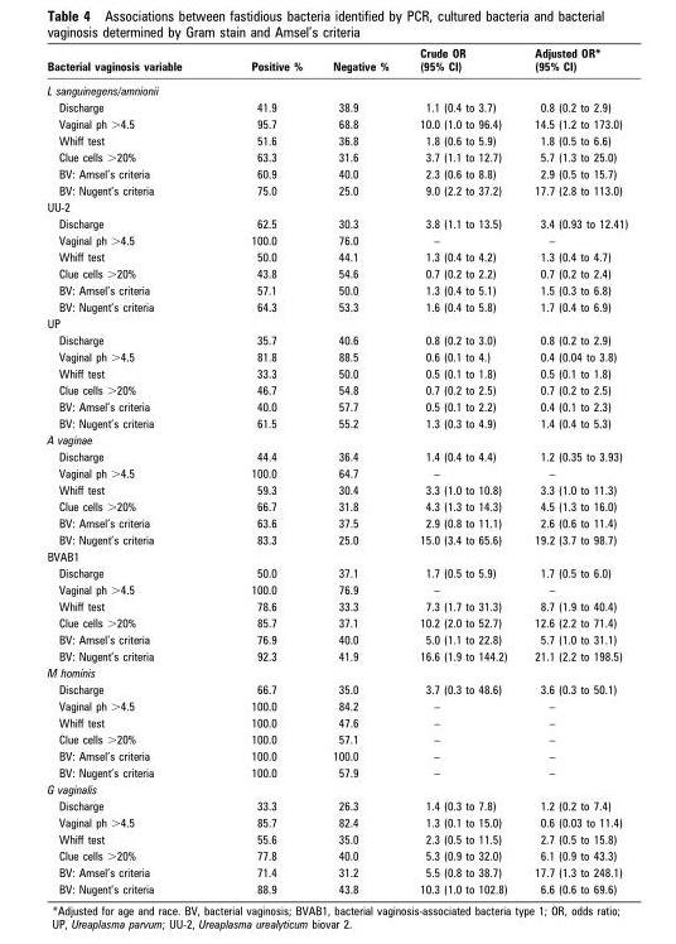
<table><thead><tr><td>Bacterial vaginosis variable</td><td>Positive %</td><td>Negative %</td><td>Crude OR (95% CI)</td><td>Adjusted OR* (95% CI)</td></tr></thead><tbody><tr><td colspan="5">L sanguinegens/amnionii</td></tr><tr><td>Discharge</td><td>41.9</td><td>38.9</td><td>1.1 (0.4 to 3.7)</td><td>0.8 (0.2 to 2.9)</td></tr><tr><td>Vaginal ph &gt;4.5</td><td>95.7</td><td>68.8</td><td>10.0 (1.0 to 96.4)</td><td>14.5 (1.2 to 173.0)</td></tr><tr><td>Whiff test</td><td>51.6</td><td>36.8</td><td>1.8 (0.6 to 5.9)</td><td>1.8 (0.5 to 6.6)</td></tr><tr><td>Clue cells &gt;20%</td><td>63.3</td><td>31.6</td><td>3.7 (1.1 to 12.7)</td><td>5.7 (1.3 to 25.0)</td></tr><tr><td>BV: Amsel’s criteria</td><td>60.9</td><td>40.0</td><td>2.3 (0.6 to 8.8)</td><td>2.9 (0.5 to 15.7)</td></tr><tr><td>BV: Nugent’s criteria</td><td>75.0</td><td>25.0</td><td>9.0 (2.2 to 37.2)</td><td>17.7 (2.8 to 113.0)</td></tr><tr><td colspan="5">UU-2</td></tr><tr><td>Discharge</td><td>62.5</td><td>30.3</td><td>3.8 (1.1 to 13.5)</td><td>3.4 (0.93 to 12.41)</td></tr><tr><td>Vaginal ph &gt;4.5</td><td>100.0</td><td>76.0</td><td>–</td><td>–</td></tr><tr><td>Whiff test</td><td>50.0</td><td>44.1</td><td>1.3 (0.4 to 4.2)</td><td>1.3 (0.4 to 4.7)</td></tr><tr><td>Clue cells &gt;20%</td><td>43.8</td><td>54.6</td><td>0.7 (0.2 to 2.2)</td><td>0.7 (0.2 to 2.4)</td></tr><tr><td>BV: Amsel’s criteria</td><td>57.1</td><td>50.0</td><td>1.3 (0.4 to 5.1)</td><td>1.5 (0.3 to 6.8)</td></tr><tr><td>BV: Nugent’s criteria</td><td>64.3</td><td>53.3</td><td>1.6 (0.4 to 5.8)</td><td>1.7 (0.4 to 6.9)</td></tr><tr><td colspan="5">UP</td></tr><tr><td>Discharge</td><td>35.7</td><td>40.6</td><td>0.8 (0.2 to 3.0)</td><td>0.8 (0.2 to 2.9)</td></tr><tr><td>Vaginal ph &gt;4.5</td><td>81.8</td><td>88.5</td><td>0.6 (0.1 to 4.)</td><td>0.4 (0.04 to 3.8)</td></tr><tr><td>Whiff test</td><td>33.3</td><td>50.0</td><td>0.5 (0.1 to 1.8)</td><td>0.5 (0.1 to 1.8)</td></tr><tr><td>Clue cells &gt;20%</td><td>46.7</td><td>54.8</td><td>0.7 (0.2 to 2.5)</td><td>0.7 (0.2 to 2.5)</td></tr><tr><td>BV: Amsel’s criteria</td><td>40.0</td><td>57.7</td><td>0.5 (0.1 to 2.2)</td><td>0.4 (0.1 to 2.3)</td></tr><tr><td>BV: Nugent’s criteria</td><td>61.5</td><td>55.2</td><td>1.3 (0.3 to 4.9)</td><td>1.4 (0.4 to 5.3)</td></tr><tr><td colspan="5">A vaginae</td></tr><tr><td>Discharge</td><td>44.4</td><td>36.4</td><td>1.4 (0.4 to 4.4)</td><td>1.2 (0.35 to 3.93)</td></tr><tr><td>Vaginal ph &gt;4.5</td><td>100.0</td><td>64.7</td><td>–</td><td>–</td></tr><tr><td>Whiff test</td><td>59.3</td><td>30.4</td><td>3.3 (1.0 to 10.8)</td><td>3.3 (1.0 to 11.3)</td></tr><tr><td>Clue cells &gt;20%</td><td>66.7</td><td>31.8</td><td>4.3 (1.3 to 14.3)</td><td>4.5 (1.3 to 16.0)</td></tr><tr><td>BV: Amsel’s criteria</td><td>63.6</td><td>37.5</td><td>2.9 (0.8 to 11.1)</td><td>2.6 (0.6 to 11.4)</td></tr><tr><td>BV: Nugent’s criteria</td><td>83.3</td><td>25.0</td><td>15.0 (3.4 to 65.6)</td><td>19.2 (3.7 to 98.7)</td></tr><tr><td colspan="5">BVAB1</td></tr><tr><td>Discharge</td><td>50.0</td><td>37.1</td><td>1.7 (0.5 to 5.9)</td><td>1.7 (0.5 to 6.0)</td></tr><tr><td>Vaginal ph &gt;4.5</td><td>100.0</td><td>76.9</td><td>–</td><td>–</td></tr><tr><td>Whiff test</td><td>78.6</td><td>33.3</td><td>7.3 (1.7 to 31.3)</td><td>8.7 (1.9 to 40.4)</td></tr><tr><td>Clue cells &gt;20%</td><td>85.7</td><td>37.1</td><td>10.2 (2.0 to 52.7)</td><td>12.6 (2.2 to 71.4)</td></tr><tr><td>BV: Amsel’s criteria</td><td>76.9</td><td>40.0</td><td>5.0 (1.1 to 22.8)</td><td>5.7 (1.0 to 31.1)</td></tr><tr><td>BV: Nugent’s criteria</td><td>92.3</td><td>41.9</td><td>16.6 (1.9 to 144.2)</td><td>21.1 (2.2 to 198.5)</td></tr><tr><td colspan="5">M hominis</td></tr><tr><td>Discharge</td><td>66.7</td><td>35.0</td><td>3.7 (0.3 to 48.6)</td><td>3.6 (0.3 to 50.1)</td></tr><tr><td>Vaginal ph &gt;4.5</td><td>100.0</td><td>84.2</td><td>–</td><td>–</td></tr><tr><td>Whiff test</td><td>100.0</td><td>47.6</td><td>–</td><td>–</td></tr><tr><td>Clue cells &gt;20%</td><td>100.0</td><td>57.1</td><td>–</td><td>–</td></tr><tr><td>BV: Amsel’s criteria</td><td>100.0</td><td>100.0</td><td>–</td><td>–</td></tr><tr><td>BV: Nugent’s criteria</td><td>100.0</td><td>57.9</td><td>–</td><td>–</td></tr><tr><td colspan="5">G vaginalis</td></tr><tr><td>Discharge</td><td>33.3</td><td>26.3</td><td>1.4 (0.3 to 7.8)</td><td>1.2 (0.2 to 7.4)</td></tr><tr><td>Vaginal ph &gt;4.5</td><td>85.7</td><td>82.4</td><td>1.3 (0.1 to 15.0)</td><td>0.6 (0.03 to 11.4)</td></tr><tr><td>Whiff test</td><td>55.6</td><td>35.0</td><td>2.3 (0.5 to 11.5)</td><td>2.7 (0.5 to 15.8)</td></tr><tr><td>Clue cells &gt;20%</td><td>77.8</td><td>40.0</td><td>5.3 (0.9 to 32.0)</td><td>6.1 (0.9 to 43.3)</td></tr><tr><td>BV: Amsel’s criteria</td><td>71.4</td><td>31.2</td><td>5.5 (0.8 to 38.7)</td><td>17.7 (1.3 to 248.1)</td></tr><tr><td>BV: Nugent’s criteria</td><td>88.9</td><td>43.8</td><td>10.3 (1.0 to 102.8)</td><td>6.6 (0.6 to 69.6)</td></tr></tbody></table>